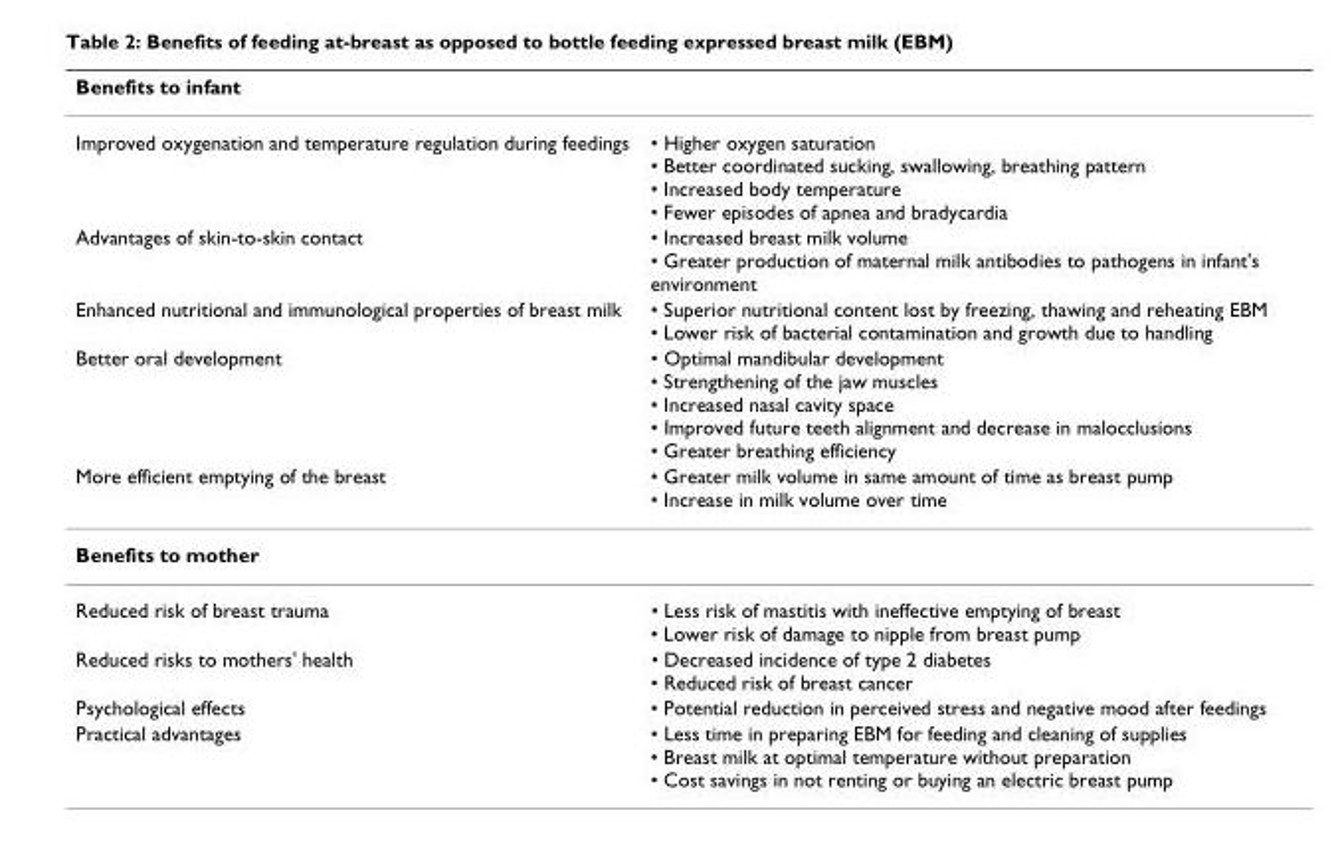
<table><thead><tr><td colspan="2">Benefits to infant</td></tr><tr><td>Improved oxygenation and temperature regulation during feedings</td><td>• Higher oxygen saturation • Better coordinated sucking, swallowing, breathing pattern • Increased body temperature • Fewer episodes of apnea and bradycardia</td></tr></thead><tbody><tr><td>Advantages of skin-to-skin contact</td><td>• Increased breast milk volume • Greater production of maternal milk antibodies to pathogens in infant&#x27;s environment</td></tr><tr><td>Enhanced nutritional and immunological properties of breast milk</td><td>• Superior nutritional content lost by freezing, thawing and reheating EBM • Lower risk of bacterial contamination and growth due to handling</td></tr><tr><td>Better oral development</td><td>• Optimal mandibular development • Strengthening of the jaw muscles • Increased nasal cavity space • Improved future teeth alignment and decrease in malocclusions • Greater breathing efficiency</td></tr><tr><td>More efficient emptying of the breast</td><td>• Greater milk volume in same amount of time as breast pump • Increase in milk volume over time</td></tr><tr><td colspan="2">Benefits to mother</td></tr><tr><td>Reduced risk of breast trauma</td><td>• Less risk of mastitis with ineffective emptying of breast • Lower risk of damage to nipple from breast pump</td></tr><tr><td>Reduced risks to mothers&#x27; health</td><td>• Decreased incidence of type 2 diabetes • Reduced risk of breast cancer</td></tr><tr><td>Psychological effects</td><td>• Potential reduction in perceived stress and negative mood after feedings</td></tr><tr><td>Practical advantages</td><td>• Less time in preparing EBM for feeding and cleaning of supplies • Breast milk at optimal temperature without preparation • Cost savings in not renting or buying an electric breast pump</td></tr></tbody></table>